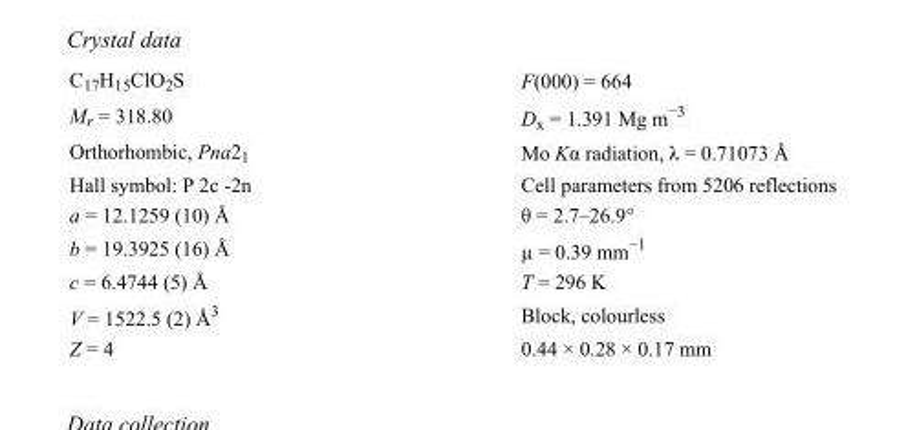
<table><tbody><tr><td>C<sub>17</sub>H<sub>15</sub>ClO<sub>2</sub>S</td><td>F(000) = 664</td></tr><tr><td>M<sub>r</sub> = 318.80</td><td>D<sub>x</sub> = 1.391 Mg m<sup>−3</sup></td></tr><tr><td>Orthorhombic, Pna2<sub>1</sub></td><td>Mo Kα radiation, λ = 0.71073 Å</td></tr><tr><td>Hall symbol: P 2c -2n</td><td>Cell parameters from 5206 reflections</td></tr><tr><td>a = 12.1259 (10) Å</td><td>θ = 2.7–26.9°</td></tr><tr><td>b = 19.3925 (16) Å</td><td>µ = 0.39 mm<sup>−1</sup></td></tr><tr><td>c = 6.4744 (5) Å</td><td>T = 296 K</td></tr><tr><td>V = 1522.5 (2) Å<sup>3</sup></td><td>Block, colourless</td></tr><tr><td>Z = 4</td><td>0.44 × 0.28 × 0.17 mm</td></tr></tbody></table>